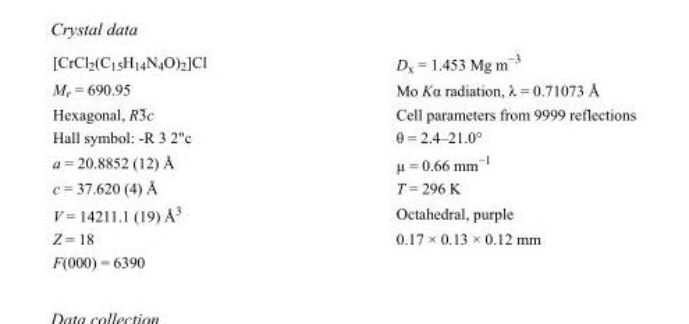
<table><tbody><tr><td>[CrCl<sub>2</sub>(C<sub>15</sub>H<sub>14</sub>N<sub>4</sub>O)<sub>2</sub>]Cl</td><td>D<sub>x</sub> = 1.453 Mg m<sup>−3</sup></td></tr><tr><td>M<sub>r</sub> = 690.95</td><td>Mo Kα radiation, λ = 0.71073 Å</td></tr><tr><td>Hexagonal, R3c</td><td>Cell parameters from 9999 reflections</td></tr><tr><td>Hall symbol: -R 3 2&quot;c</td><td>θ = 2.4–21.0°</td></tr><tr><td>a = 20.8852 (12) Å</td><td>µ = 0.66 mm<sup>−1</sup></td></tr><tr><td>c = 37.620 (4) Å</td><td>T = 296 K</td></tr><tr><td>V = 14211.1 (19) Å<sup>3</sup></td><td>Octahedral, purple</td></tr><tr><td>Z = 18</td><td>0.17 × 0.13 × 0.12 mm</td></tr><tr><td>F(000) = 6390</td><td></td></tr></tbody></table>